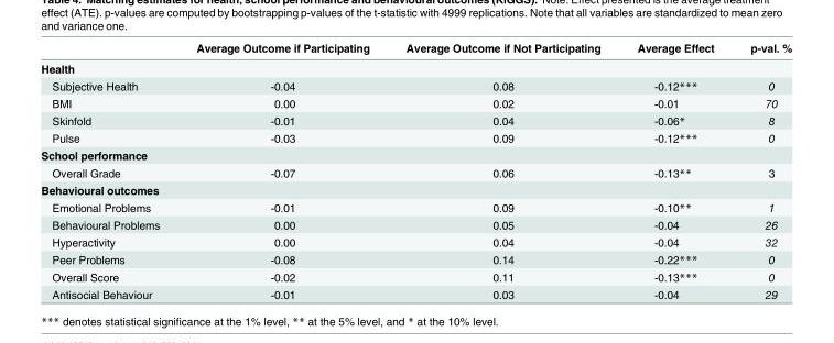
<table><thead><tr><td></td><td>Average Outcome if Participating</td><td>Average Outcome if Not Participating</td><td>Average Effect</td><td>p-val. %</td></tr></thead><tbody><tr><td colspan="5">Health</td></tr><tr><td>Subjective Health</td><td>-0.04</td><td>0.08</td><td>-0.12***</td><td>0</td></tr><tr><td>BMI</td><td>0.00</td><td>0.02</td><td>-0.01</td><td>70</td></tr><tr><td>Skinfold</td><td>-0.01</td><td>0.04</td><td>-0.06*</td><td>8</td></tr><tr><td>Pulse</td><td>-0.03</td><td>0.09</td><td>-0.12***</td><td>0</td></tr><tr><td colspan="5">School performance</td></tr><tr><td>Overall Grade</td><td>-0.07</td><td>0.06</td><td>-0.13**</td><td>3</td></tr><tr><td colspan="5">Behavioural outcomes</td></tr><tr><td>Emotional Problems</td><td>-0.01</td><td>0.09</td><td>-0.10**</td><td>1</td></tr><tr><td>Behavioural Problems</td><td>0.00</td><td>0.05</td><td>-0.04</td><td>26</td></tr><tr><td>Hyperactivity</td><td>0.00</td><td>0.04</td><td>-0.04</td><td>32</td></tr><tr><td>Peer Problems</td><td>-0.08</td><td>0.14</td><td>-0.22***</td><td>0</td></tr><tr><td>Overall Score</td><td>-0.02</td><td>0.11</td><td>-0.13***</td><td>0</td></tr><tr><td>Antisocial Behaviour</td><td>-0.01</td><td>0.03</td><td>-0.04</td><td>29</td></tr></tbody></table>